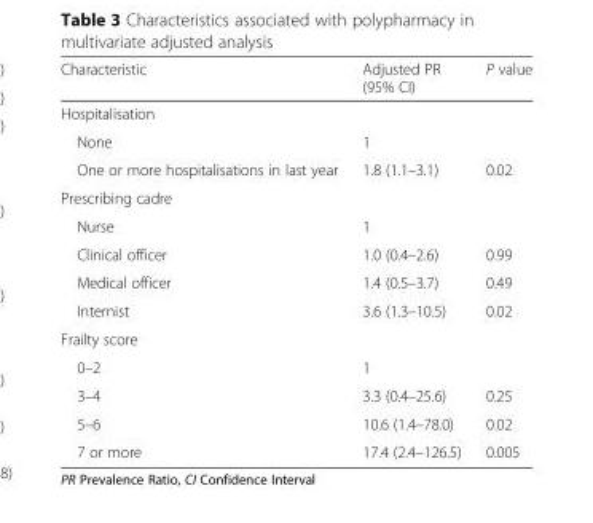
<table><thead><tr><td>Characteristic</td><td>Adjusted PR (95% CI)</td><td>P value</td></tr></thead><tbody><tr><td colspan="3">Hospitalisation</td></tr><tr><td>None</td><td>1</td><td></td></tr><tr><td>One or more hospitalisations in last year</td><td>1.8 (1.1–3.1)</td><td>0.02</td></tr><tr><td colspan="3">Prescribing cadre</td></tr><tr><td>Nurse</td><td>1</td><td></td></tr><tr><td>Clinical officer</td><td>1.0 (0.4–2.6)</td><td>0.99</td></tr><tr><td>Medical officer</td><td>1.4 (0.5–3.7)</td><td>0.49</td></tr><tr><td>Internist</td><td>3.6 (1.3–10.5)</td><td>0.02</td></tr><tr><td colspan="3">Frailty score</td></tr><tr><td>0–2</td><td>1</td><td></td></tr><tr><td>3–4</td><td>3.3 (0.4–25.6)</td><td>0.25</td></tr><tr><td>5–6</td><td>10.6 (1.4–78.0)</td><td>0.02</td></tr><tr><td>7 or more</td><td>17.4 (2.4–126.5)</td><td>0.005</td></tr></tbody></table>